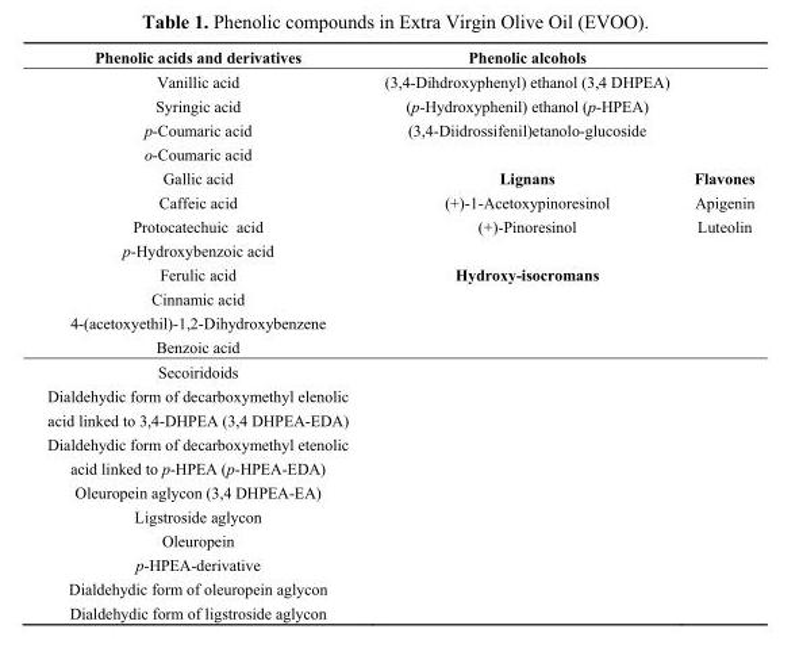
<table><thead><tr><td>Phenolic acids and derivatives</td><td>Phenolic alcohols</td><td></td></tr></thead><tbody><tr><td>Vanillic acid</td><td>(3,4-Dihdroxyphenyl) ethanol (3,4 DHPEA)</td><td></td></tr><tr><td>Syringic acid</td><td>(p-Hydroxyphenil) ethanol (p-HPEA)</td><td></td></tr><tr><td>p-Coumaric acid</td><td>(3,4-Diidrossifenil)etanolo-glucoside</td><td></td></tr><tr><td colspan="3">o-Coumaric acid</td></tr><tr><td>Gallic acid</td><td>Lignans</td><td>Flavones</td></tr><tr><td>Caffeic acid</td><td>(+)-1-Acetoxypinoresinol</td><td>Apigenin</td></tr><tr><td>Protocatechuic acid</td><td>(+)-Pinoresinol</td><td>Luteolin</td></tr><tr><td colspan="3">p-Hydroxybenzoic acid</td></tr><tr><td>Ferulic acid</td><td>Hydroxy-isocromans</td><td></td></tr><tr><td colspan="3">Cinnamic acid</td></tr><tr><td colspan="3">4-(acetoxyethil)-1,2-Dihydroxybenzene</td></tr><tr><td colspan="3">Benzoic acid</td></tr><tr><td colspan="3">Secoiridoids</td></tr><tr><td colspan="3">Dialdehydic form of decarboxymethyl elenolic acid linked to 3,4-DHPEA (3,4 DHPEA-EDA)</td></tr><tr><td colspan="3">Dialdehydic form of decarboxymethyl etenolic acid linked to p-HPEA (p-HPEA-EDA)</td></tr><tr><td colspan="3">Oleuropein aglycon (3,4 DHPEA-EA)</td></tr><tr><td colspan="3">Ligstroside aglycon</td></tr><tr><td colspan="3">Oleuropein</td></tr><tr><td colspan="3">p-HPEA-derivative</td></tr><tr><td colspan="3">Dialdehydic form of oleuropein aglycon</td></tr><tr><td>Dialdehydic form of ligstroside aglycon</td><td></td><td></td></tr></tbody></table>